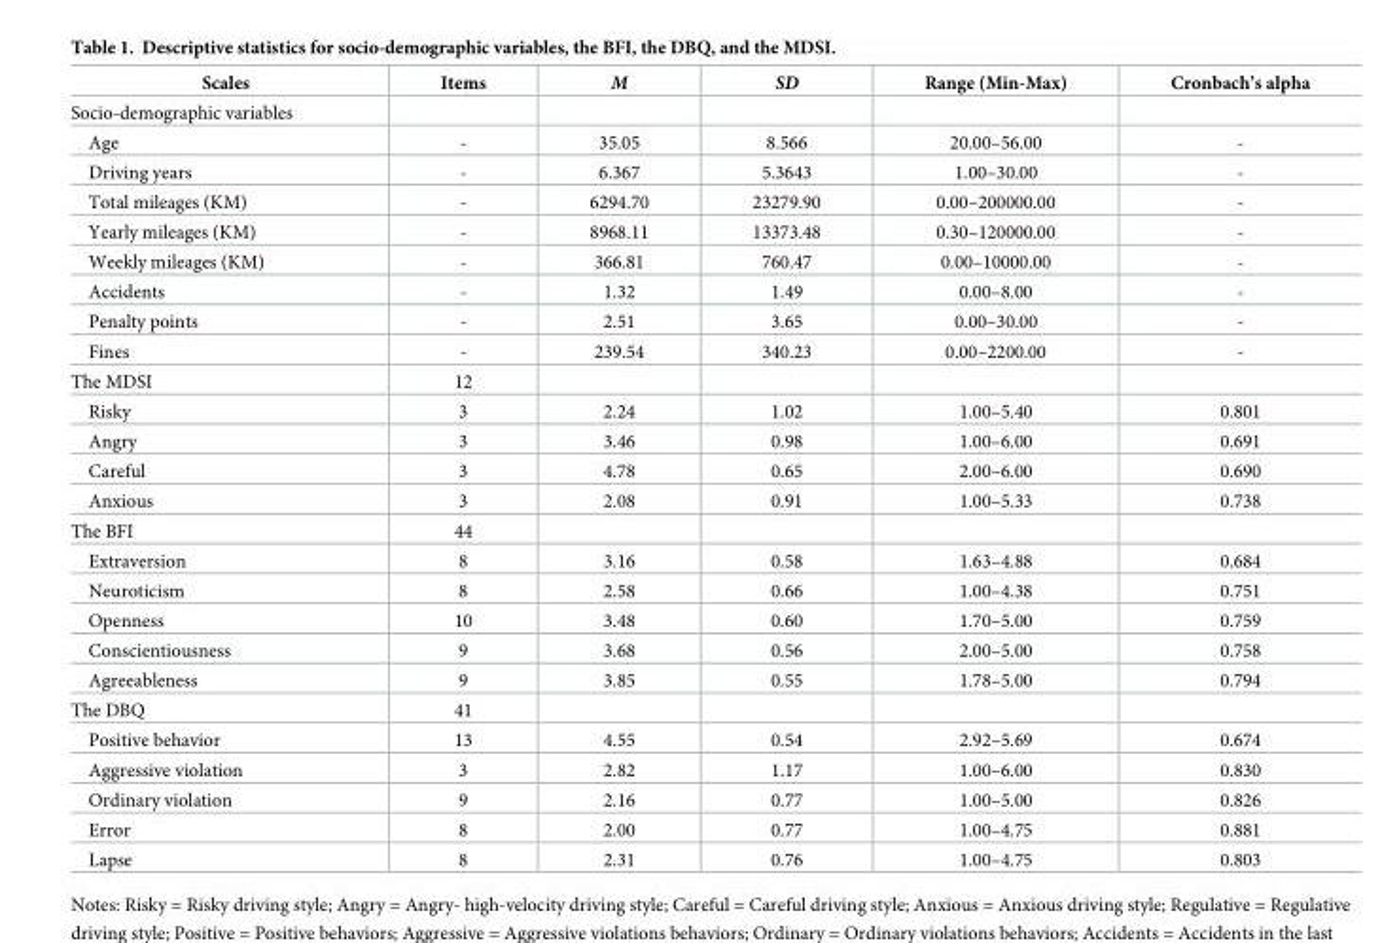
<table><thead><tr><td>Scales</td><td>Items</td><td>M</td><td>SD</td><td>Range (Min-Max)</td><td>Cronbach’s alpha</td></tr></thead><tbody><tr><td colspan="6">Socio-demographic variables</td></tr><tr><td>Age</td><td>-</td><td>35.05</td><td>8.566</td><td>20.00–56.00</td><td>-</td></tr><tr><td>Driving years</td><td>-</td><td>6.367</td><td>5.3643</td><td>1.00–30.00</td><td>-</td></tr><tr><td>Total mileages (KM)</td><td>-</td><td>6294.70</td><td>23279.90</td><td>0.00–200000.00</td><td>-</td></tr><tr><td>Yearly mileages (KM)</td><td>-</td><td>8968.11</td><td>13373.48</td><td>0.30–120000.00</td><td>-</td></tr><tr><td>Weekly mileages (KM)</td><td>-</td><td>366.81</td><td>760.47</td><td>0.00–10000.00</td><td>-</td></tr><tr><td>Accidents</td><td>-</td><td>1.32</td><td>1.49</td><td>0.00–8.00</td><td>-</td></tr><tr><td>Penalty points</td><td>-</td><td>2.51</td><td>3.65</td><td>0.00–30.00</td><td>-</td></tr><tr><td>Fines</td><td>-</td><td>239.54</td><td>340.23</td><td>0.00–2200.00</td><td>-</td></tr><tr><td>The MDSI</td><td>12</td><td></td><td></td><td></td><td></td></tr><tr><td>Risky</td><td>3</td><td>2.24</td><td>1.02</td><td>1.00–5.40</td><td>0.801</td></tr><tr><td>Angry</td><td>3</td><td>3.46</td><td>0.98</td><td>1.00–6.00</td><td>0.691</td></tr><tr><td>Careful</td><td>3</td><td>4.78</td><td>0.65</td><td>2.00–6.00</td><td>0.690</td></tr><tr><td>Anxious</td><td>3</td><td>2.08</td><td>0.91</td><td>1.00–5.33</td><td>0.738</td></tr><tr><td>The BFI</td><td>44</td><td></td><td></td><td></td><td></td></tr><tr><td>Extraversion</td><td>8</td><td>3.16</td><td>0.58</td><td>1.63–4.88</td><td>0.684</td></tr><tr><td>Neuroticism</td><td>8</td><td>2.58</td><td>0.66</td><td>1.00–4.38</td><td>0.751</td></tr><tr><td>Openness</td><td>10</td><td>3.48</td><td>0.60</td><td>1.70–5.00</td><td>0.759</td></tr><tr><td>Conscientiousness</td><td>9</td><td>3.68</td><td>0.56</td><td>2.00–5.00</td><td>0.758</td></tr><tr><td>Agreeableness</td><td>9</td><td>3.85</td><td>0.55</td><td>1.78–5.00</td><td>0.794</td></tr><tr><td>The DBQ</td><td>41</td><td></td><td></td><td></td><td></td></tr><tr><td>Positive behavior</td><td>13</td><td>4.55</td><td>0.54</td><td>2.92–5.69</td><td>0.674</td></tr><tr><td>Aggressive violation</td><td>3</td><td>2.82</td><td>1.17</td><td>1.00–6.00</td><td>0.830</td></tr><tr><td>Ordinary violation</td><td>9</td><td>2.16</td><td>0.77</td><td>1.00–5.00</td><td>0.826</td></tr><tr><td>Error</td><td>8</td><td>2.00</td><td>0.77</td><td>1.00–4.75</td><td>0.881</td></tr><tr><td>Lapse</td><td>8</td><td>2.31</td><td>0.76</td><td>1.00–4.75</td><td>0.803</td></tr></tbody></table>